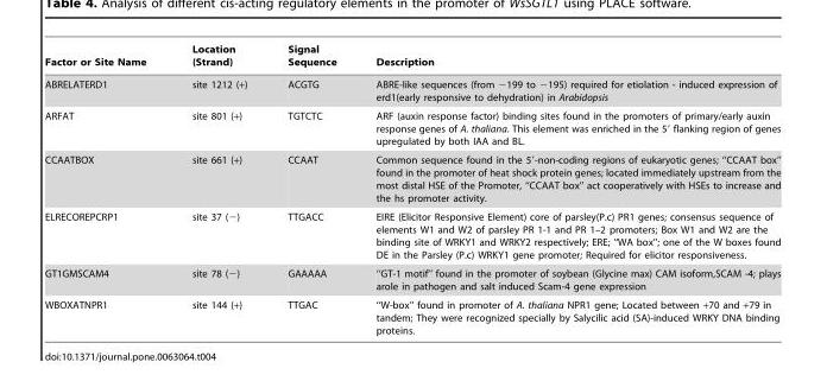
<table><thead><tr><td>Factor or Site Name</td><td>Location (Strand)</td><td>Signal Sequence</td><td>Description</td></tr></thead><tbody><tr><td>ABRELATERD1</td><td>site 1212 (+)</td><td>ACGTG</td><td>ABRE-like sequences (from −199 to −195) required for etiolation - induced expression of erd1(early responsive to dehydration) in Arabidopsis</td></tr><tr><td>ARFAT</td><td>site 801 (+)</td><td>TGTCTC</td><td>ARF (auxin response factor) binding sites found in the promoters of primary/early auxin response genes of A. thaliana. This element was enriched in the 5′ flanking region of genes upregulated by both IAA and BL.</td></tr><tr><td>CCAATBOX</td><td>site 661 (+)</td><td>CCAAT</td><td>Common sequence found in the 59-non-coding regions of eukaryotic genes; ‘‘CCAAT box’’ found in the promoter of heat shock protein genes; located immediately upstream from the most distal HSE of the Promoter, ‘‘CCAAT box’’ act cooperatively with HSEs to increase and the hs promoter activity.</td></tr><tr><td>ELRECOREPCRP1</td><td>site 37 (−)</td><td>TTGACC</td><td>EIRE (Elicitor Responsive Element) core of parsley(P.c) PR1 genes; consensus sequence of elements W1 and W2 of parsley PR 1-1 and PR 1–2 promoters; Box W1 and W2 are the binding site of WRKY1 and WRKY2 respectively; ERE; ‘‘WA box’’; one of the W boxes found DE in the Parsley (P.c) WRKY1 gene promoter; Required for elicitor responsiveness.</td></tr><tr><td>GT1GMSCAM4</td><td>site 78 (−)</td><td>GAAAAA</td><td>‘‘GT-1 motif’’ found in the promoter of soybean (Glycine max) CAM isoform,SCAM -4; plays arole in pathogen and salt induced Scam-4 gene expression</td></tr><tr><td>WBOXATNPR1</td><td>site 144 (+)</td><td>TTGAC</td><td>‘‘W-box’’ found in promoter of A. thaliana NPR1 gene; Located between +70 and +79 in tandem; They were recognized specially by Salycilic acid (SA)-induced WRKY DNA binding proteins.</td></tr></tbody></table>